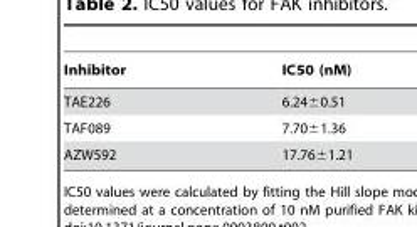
<table><thead><tr><td>Inhibitor</td><td>IC50 (nM)</td></tr></thead><tbody><tr><td>TAE226</td><td>6.24±0.51</td></tr><tr><td>TAF089</td><td>7.70±1.36</td></tr><tr><td>AZW592</td><td>17.76±1.21</td></tr></tbody></table>